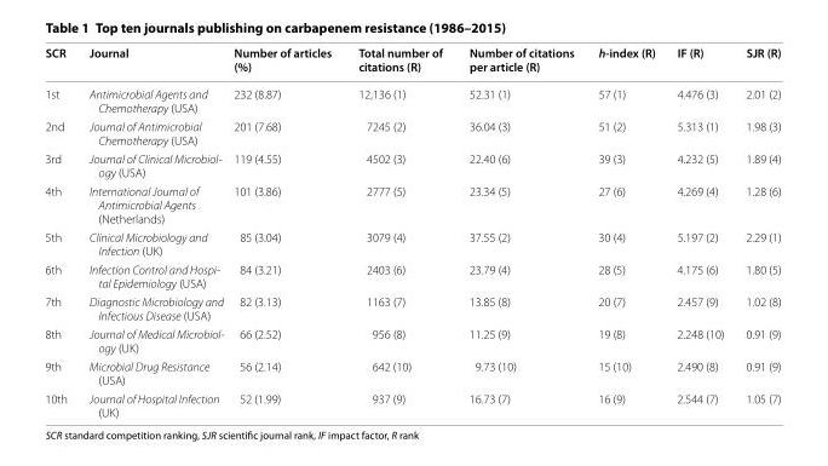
<table><thead><tr><td>SCR</td><td>Journal</td><td>Number of articles (%)</td><td>Total number of citations (R)</td><td>Number of citations per article (R)</td><td>h-index (R)</td><td>IF (R)</td><td>SJR (R)</td></tr></thead><tbody><tr><td>1st</td><td>Antimicrobial Agents and Chemotherapy (USA)</td><td>232 (8.87)</td><td>12,136 (1)</td><td>52.31 (1)</td><td>57 (1)</td><td>4.476 (3)</td><td>2.01 (2)</td></tr><tr><td>2nd</td><td>Journal of Antimicrobial Chemotherapy (USA)</td><td>201 (7.68)</td><td>7245 (2)</td><td>36.04 (3)</td><td>51 (2)</td><td>5.313 (1)</td><td>1.98 (3)</td></tr><tr><td>3rd</td><td>Journal of Clinical Microbiol- ogy (USA)</td><td>119 (4.55)</td><td>4502 (3)</td><td>22.40 (6)</td><td>39 (3)</td><td>4.232 (5)</td><td>1.89 (4)</td></tr><tr><td>4th</td><td>International Journal of Antimicrobial Agents (Netherlands)</td><td>101 (3.86)</td><td>2777 (5)</td><td>23.34 (5)</td><td>27 (6)</td><td>4.269 (4)</td><td>1.28 (6)</td></tr><tr><td>5th</td><td>Clinical Microbiology and Infection (UK)</td><td>85 (3.04)</td><td>3079 (4)</td><td>37.55 (2)</td><td>30 (4)</td><td>5.197 (2)</td><td>2.29 (1)</td></tr><tr><td>6th</td><td>Infection Control and Hospi- tal Epidemiology (USA)</td><td>84 (3.21)</td><td>2403 (6)</td><td>23.79 (4)</td><td>28 (5)</td><td>4.175 (6)</td><td>1.80 (5)</td></tr><tr><td>7th</td><td>Diagnostic Microbiology and Infectious Disease (USA)</td><td>82 (3.13)</td><td>1163 (7)</td><td>13.85 (8)</td><td>20 (7)</td><td>2.457 (9)</td><td>1.02 (8)</td></tr><tr><td>8th</td><td>Journal of Medical Microbiol- ogy (UK)</td><td>66 (2.52)</td><td>956 (8)</td><td>11.25 (9)</td><td>19 (8)</td><td>2.248 (10)</td><td>0.91 (9)</td></tr><tr><td>9th</td><td>Microbial Drug Resistance (USA)</td><td>56 (2.14)</td><td>642 (10)</td><td>9.73 (10)</td><td>15 (10)</td><td>2.490 (8)</td><td>0.91 (9)</td></tr><tr><td>10th</td><td>Journal of Hospital Infection (UK)</td><td>52 (1.99)</td><td>937 (9)</td><td>16.73 (7)</td><td>16 (9)</td><td>2.544 (7)</td><td>1.05 (7)</td></tr></tbody></table>